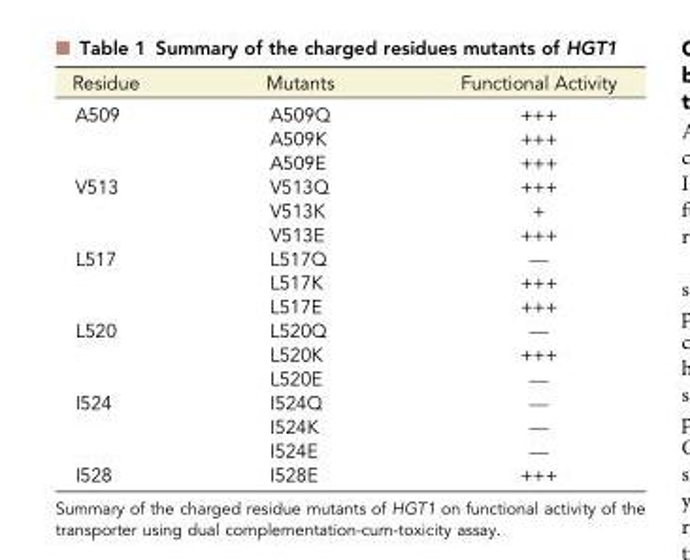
<table><thead><tr><td>Residue</td><td>Mutants</td><td>Functional Activity</td></tr></thead><tbody><tr><td rowspan="3">A509</td><td>A509Q</td><td>+++</td></tr><tr><td>A509K</td><td>+++</td></tr><tr><td>A509E</td><td>+++</td></tr><tr><td rowspan="3">V513</td><td>V513Q</td><td>+++</td></tr><tr><td>V513K</td><td>+</td></tr><tr><td>V513E</td><td>+++</td></tr><tr><td rowspan="3">L517</td><td>L517Q</td><td>—</td></tr><tr><td>L517K</td><td>+++</td></tr><tr><td>L517E</td><td>+++</td></tr><tr><td rowspan="3">L520</td><td>L520Q</td><td>—</td></tr><tr><td>L520K</td><td>+++</td></tr><tr><td>L520E</td><td>—</td></tr><tr><td rowspan="3">I524</td><td>I524Q</td><td>—</td></tr><tr><td>I524K</td><td>—</td></tr><tr><td>I524E</td><td>—</td></tr><tr><td>I528</td><td>I528E</td><td>+++</td></tr></tbody></table>